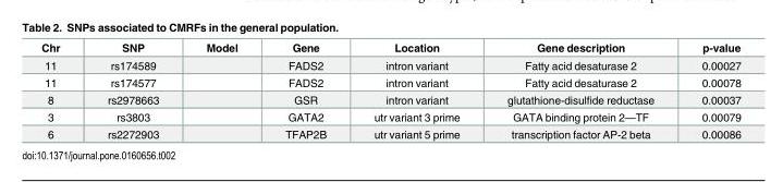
<table><thead><tr><td>Chr</td><td>SNP</td><td>Model</td><td>Gene</td><td>Location</td><td>Gene description</td><td>p-value</td></tr></thead><tbody><tr><td>11</td><td>rs174589</td><td></td><td>FADS2</td><td>intron variant</td><td>Fatty acid desaturase 2</td><td>0.00027</td></tr><tr><td>11</td><td>rs174577</td><td></td><td>FADS2</td><td>intron variant</td><td>Fatty acid desaturase 2</td><td>0.00078</td></tr><tr><td>8</td><td>rs2978663</td><td></td><td>GSR</td><td>intron variant</td><td>glutathione-disulfide reductase</td><td>0.00037</td></tr><tr><td>3</td><td>rs3803</td><td></td><td>GATA2</td><td>utr variant 3 prime</td><td>GATA binding protein 2—TF</td><td>0.00079</td></tr><tr><td>6</td><td>rs2272903</td><td></td><td>TFAP2B</td><td>utr variant 5 prime</td><td>transcription factor AP-2 beta</td><td>0.00086</td></tr></tbody></table>